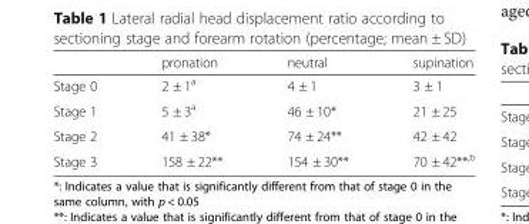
<table><thead><tr><td></td><td>pronation</td><td>neutral</td><td>supination</td></tr></thead><tbody><tr><td>Stage 0</td><td>2 ± 1<sup>a</sup></td><td>4 ± 1</td><td>3 ± 1</td></tr><tr><td>Stage 1</td><td>5 ± 3<sup>a</sup></td><td>46 ± 10*</td><td>21 ± 25</td></tr><tr><td>Stage 2</td><td>41 ± 38*</td><td>74 ± 24**</td><td>42 ± 42</td></tr><tr><td>Stage 3</td><td>158 ± 22**</td><td>154 ± 30**</td><td>70 ± 42**<sup>,b</sup></td></tr></tbody></table>